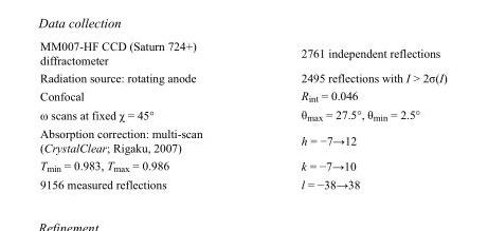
<table><tbody><tr><td>MM007-HF CCD (Saturn 724+) diffractometer</td><td>2761 independent reflections</td></tr><tr><td>Radiation source: rotating anode</td><td>2495 reflections with I &gt; 2σ(I)</td></tr><tr><td>Confocal</td><td>R<sub>int</sub> = 0.046</td></tr><tr><td>ω scans at fixed χ = 45°</td><td>θ<sub>max</sub> = 27.5°, θ<sub>min</sub> = 2.5°</td></tr><tr><td>Absorption correction: multi-scan (CrystalClear; Rigaku, 2007)</td><td>h = −7→12</td></tr><tr><td>T<sub>min</sub> = 0.983, T<sub>max</sub> = 0.986</td><td>k = −7→10</td></tr><tr><td>9156 measured reflections</td><td>l = −38→38</td></tr></tbody></table>